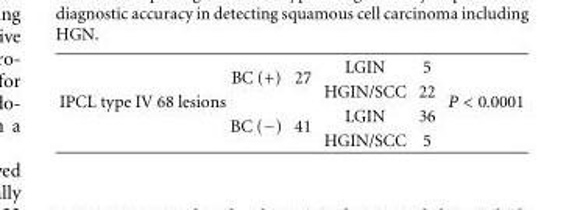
<table><tbody><tr><td rowspan="4">IPCL type IV 68 lesions</td><td rowspan="2">BC (+)</td><td rowspan="2">27</td><td>LGIN</td><td>5</td><td rowspan="4">P &lt; 0.0001</td></tr><tr><td>HGIN/SCC</td><td>22</td></tr><tr><td rowspan="2">BC (−)</td><td rowspan="2">41</td><td>LGIN</td><td>36</td></tr><tr><td>HGIN/SCC</td><td>5</td></tr></tbody></table>